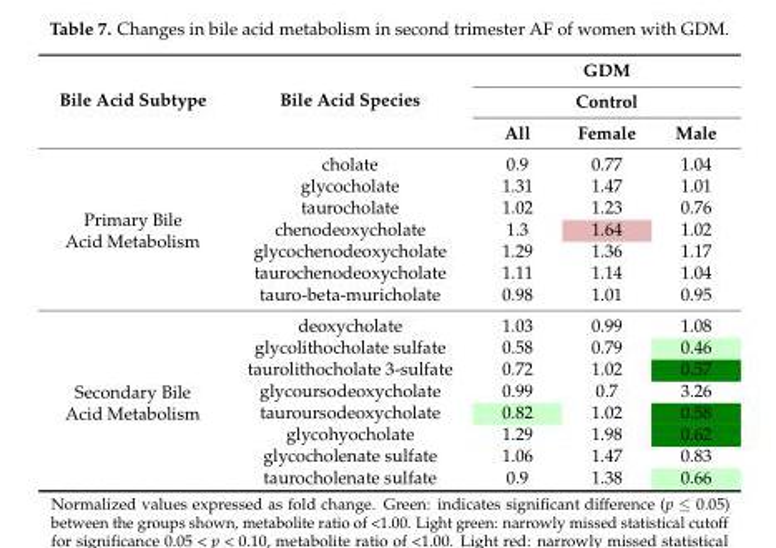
<table><thead><tr><td rowspan="3">Bile Acid Subtype</td><td rowspan="3">Bile Acid Species</td><td rowspan="2" colspan="3">GDM Control</td></tr><tr></tr><tr><td>All</td><td>Female</td><td>Male</td></tr></thead><tbody><tr><td rowspan="7">Primary Bile Acid Metabolism</td><td>cholate</td><td>0.9</td><td>0.77</td><td>1.04</td></tr><tr><td>glycocholate</td><td>1.31</td><td>1.47</td><td>1.01</td></tr><tr><td>taurocholate</td><td>1.02</td><td>1.23</td><td>0.76</td></tr><tr><td>chenodeoxycholate</td><td>1.3</td><td>1.64</td><td>1.02</td></tr><tr><td>glycochenodeoxycholate</td><td>1.29</td><td>1.36</td><td>1.17</td></tr><tr><td>taurochenodeoxycholate</td><td>1.11</td><td>1.14</td><td>1.04</td></tr><tr><td>tauro-beta-muricholate</td><td>0.98</td><td>1.01</td><td>0.95</td></tr><tr><td rowspan="8">Secondary Bile Acid Metabolism</td><td>deoxycholate</td><td>1.03</td><td>0.99</td><td>1.08</td></tr><tr><td>glycolithocholate sulfate</td><td>0.58</td><td>0.79</td><td>0.46</td></tr><tr><td>taurolithocholate 3-sulfate</td><td>0.72</td><td>1.02</td><td>0.57</td></tr><tr><td>glycoursodeoxycholate</td><td>0.99</td><td>0.7</td><td>3.26</td></tr><tr><td>tauroursodeoxycholate</td><td>0.82</td><td>1.02</td><td>0.58</td></tr><tr><td>glycohyocholate</td><td>1.29</td><td>1.98</td><td>0.62</td></tr><tr><td>glycocholenate sulfate</td><td>1.06</td><td>1.47</td><td>0.83</td></tr><tr><td>taurocholenate sulfate</td><td>0.9</td><td>1.38</td><td>0.66</td></tr></tbody></table>